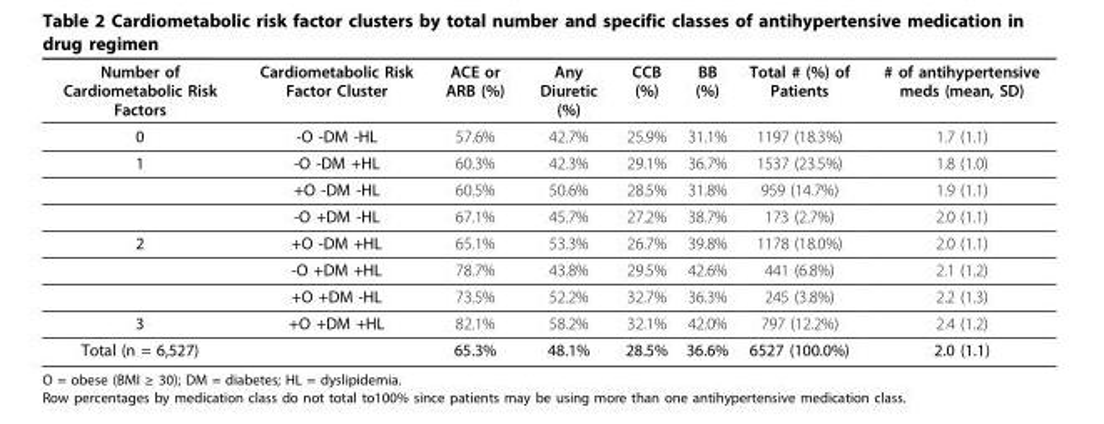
<table><thead><tr><td>Number of Cardiometabolic Risk Factors</td><td>Cardiometabolic Risk Factor Cluster</td><td>ACE or ARB (%)</td><td>Any Diuretic (%)</td><td>CCB (%)</td><td>BB (%)</td><td>Total # (%) of Patients</td><td># of antihypertensive meds (mean, SD)</td></tr></thead><tbody><tr><td>0</td><td>-O -DM -HL</td><td>57.6%</td><td>42.7%</td><td>25.9%</td><td>31.1%</td><td>1197 (18.3%)</td><td>1.7 (1.1)</td></tr><tr><td rowspan="3">1</td><td>-O -DM +HL</td><td>60.3%</td><td>42.3%</td><td>29.1%</td><td>36.7%</td><td>1537 (23.5%)</td><td>1.8 (1.0)</td></tr><tr><td>+O -DM -HL</td><td>60.5%</td><td>50.6%</td><td>28.5%</td><td>31.8%</td><td>959 (14.7%)</td><td>1.9 (1.1)</td></tr><tr><td>-O +DM -HL</td><td>67.1%</td><td>45.7%</td><td>27.2%</td><td>38.7%</td><td>173 (2.7%)</td><td>2.0 (1.1)</td></tr><tr><td rowspan="3">2</td><td>+O -DM +HL</td><td>65.1%</td><td>53.3%</td><td>26.7%</td><td>39.8%</td><td>1178 (18.0%)</td><td>2.0 (1.1)</td></tr><tr><td>-O +DM +HL</td><td>78.7%</td><td>43.8%</td><td>29.5%</td><td>42.6%</td><td>441 (6.8%)</td><td>2.1 (1.2)</td></tr><tr><td>+O +DM -HL</td><td>73.5%</td><td>52.2%</td><td>32.7%</td><td>36.3%</td><td>245 (3.8%)</td><td>2.2 (1.3)</td></tr><tr><td>3</td><td>+O +DM +HL</td><td>82.1%</td><td>58.2%</td><td>32.1%</td><td>42.0%</td><td>797 (12.2%)</td><td>2.4 (1.2)</td></tr><tr><td>Total (n = 6,527)</td><td></td><td>65.3%</td><td>48.1%</td><td>28.5%</td><td>36.6%</td><td>6527 (100.0%)</td><td>2.0 (1.1)</td></tr></tbody></table>